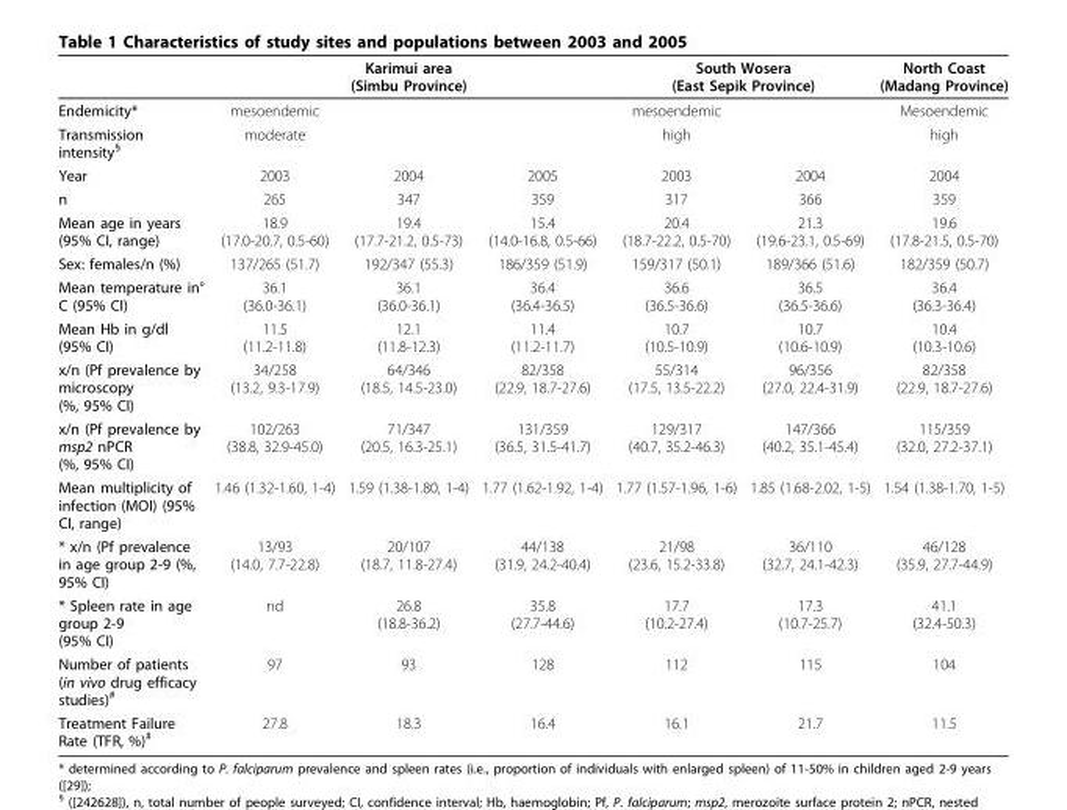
<table><thead><tr><td rowspan="2">Endemicity*</td><td colspan="3">Karimui area (Simbu Province)</td><td colspan="2">South Wosera (East Sepik Province)</td><td rowspan="2">North Coast (Madang Province) Mesoendemic</td></tr><tr><td>mesoendemic</td><td></td><td></td><td>mesoendemic</td><td></td></tr></thead><tbody><tr><td>Transmission intensity<sup>§</sup></td><td>moderate</td><td></td><td></td><td>high</td><td></td><td>high</td></tr><tr><td>Year</td><td>2003</td><td>2004</td><td>2005</td><td>2003</td><td>2004</td><td>2004</td></tr><tr><td>n</td><td>265</td><td>347</td><td>359</td><td>317</td><td>366</td><td>359</td></tr><tr><td>Mean age in years (95% CI, range)</td><td>18.9 (17.0-20.7, 0.5-60)</td><td>19.4 (17.7-21.2, 0.5-73)</td><td>15.4 (14.0-16.8, 0.5-66)</td><td>20.4 (18.7-22.2, 0.5-70)</td><td>21.3 (19.6-23.1, 0.5-69)</td><td>19.6 (17.8-21.5, 0.5-70)</td></tr><tr><td>Sex: females/n (%)</td><td>137/265 (51.7)</td><td>192/347 (55.3)</td><td>186/359 (51.9)</td><td>159/317 (50.1)</td><td>189/366 (51.6)</td><td>182/359 (50.7)</td></tr><tr><td>Mean temperature in° C (95% CI)</td><td>36.1 (36.0-36.1)</td><td>36.1 (36.0-36.1)</td><td>36.4 (36.4-36.5)</td><td>36.6 (36.5-36.6)</td><td>36.5 (36.5-36.6)</td><td>36.4 (36.3-36.4)</td></tr><tr><td>Mean Hb in g/dl (95% CI)</td><td>11.5 (11.2-11.8)</td><td>12.1 (11.8-12.3)</td><td>11.4 (11.2-11.7)</td><td>10.7 (10.5-10.9)</td><td>10.7 (10.6-10.9)</td><td>10.4 (10.3-10.6)</td></tr><tr><td>x/n (Pf prevalence by microscopy (%, 95% CI)</td><td>34/258 (13.2, 9.3-17.9)</td><td>64/346 (18.5, 14.5-23.0)</td><td>82/358 (22.9, 18.7-27.6)</td><td>55/314 (17.5, 13.5-22.2)</td><td>96/356 (27.0, 22.4-31.9)</td><td>82/358 (22.9, 18.7-27.6)</td></tr><tr><td>x/n (Pf prevalence by msp2 nPCR (%, 95% CI)</td><td>102/263 (38.8, 32.9-45.0)</td><td>71/347 (20.5, 16.3-25.1)</td><td>131/359 (36.5, 31.5-41.7)</td><td>129/317 (40.7, 35.2-46.3)</td><td>147/366 (40.2, 35.1-45.4)</td><td>115/359 (32.0, 27.2-37.1)</td></tr><tr><td>Mean multiplicity of infection (MOI) (95% CI, range)</td><td>1.46 (1.32-1.60, 1-4)</td><td>1.59 (1.38-1.80, 1-4)</td><td>1.77 (1.62-1.92, 1-4)</td><td>1.77 (1.57-1.96, 1-6)</td><td>1.85 (1.68-2.02, 1-5)</td><td>1.54 (1.38-1.70, 1-5)</td></tr><tr><td>* x/n (Pf prevalence in age group 2-9 (%, 95% CI)</td><td>13/93 (14.0, 7.7-22.8)</td><td>20/107 (18.7, 11.8-27.4)</td><td>44/138 (31.9, 24.2-40.4)</td><td>21/98 (23.6, 15.2-33.8)</td><td>36/110 (32.7, 24.1-42.3)</td><td>46/128 (35.9, 27.7-44.9)</td></tr><tr><td>* Spleen rate in age group 2-9 (95% CI)</td><td>nd</td><td>26.8 (18.8-36.2)</td><td>35.8 (27.7-44.6)</td><td>17.7 (10.2-27.4)</td><td>17.3 (10.7-25.7)</td><td>41.1 (32.4-50.3)</td></tr><tr><td>Number of patients (in vivo drug efficacy studies)<sup>#</sup></td><td>97</td><td>93</td><td>128</td><td>112</td><td>115</td><td>104</td></tr><tr><td>Treatment Failure Rate (TFR, %)<sup>#</sup></td><td>27.8</td><td>18.3</td><td>16.4</td><td>16.1</td><td>21.7</td><td>11.5</td></tr></tbody></table>